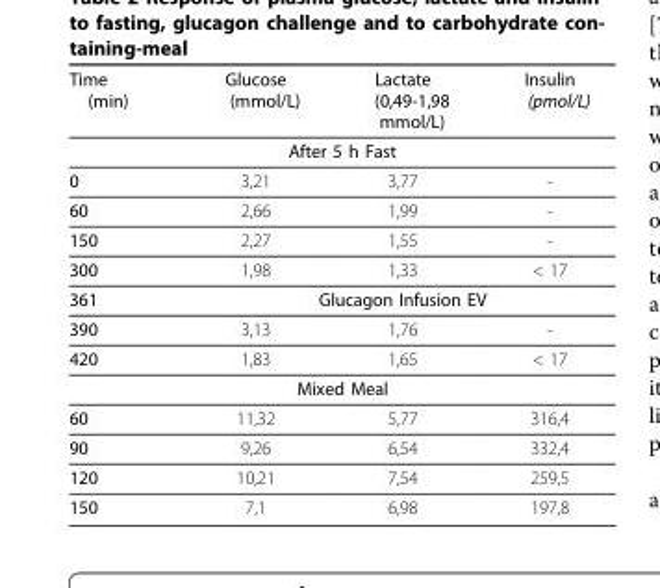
<table><thead><tr><td>Time (min)</td><td>Glucose (mmol/L)</td><td>Lactate (0,49-1,98 mmol/L)</td><td>Insulin (pmol/L)</td></tr></thead><tbody><tr><td colspan="4">After 5 h Fast</td></tr><tr><td>0</td><td>3,21</td><td>3,77</td><td>-</td></tr><tr><td>60</td><td>2,66</td><td>1,99</td><td>-</td></tr><tr><td>150</td><td>2,27</td><td>1,55</td><td>-</td></tr><tr><td>300</td><td>1,98</td><td>1,33</td><td>&lt; 17</td></tr><tr><td>361</td><td colspan="3">Glucagon Infusion EV</td></tr><tr><td>390</td><td>3,13</td><td>1,76</td><td>-</td></tr><tr><td>420</td><td>1,83</td><td>1,65</td><td>&lt; 17</td></tr><tr><td colspan="4">Mixed Meal</td></tr><tr><td>60</td><td>11,32</td><td>5,77</td><td>316,4</td></tr><tr><td>90</td><td>9,26</td><td>6,54</td><td>332,4</td></tr><tr><td>120</td><td>10,21</td><td>7,54</td><td>259,5</td></tr><tr><td>150</td><td>7,1</td><td>6,98</td><td>197,8</td></tr></tbody></table>